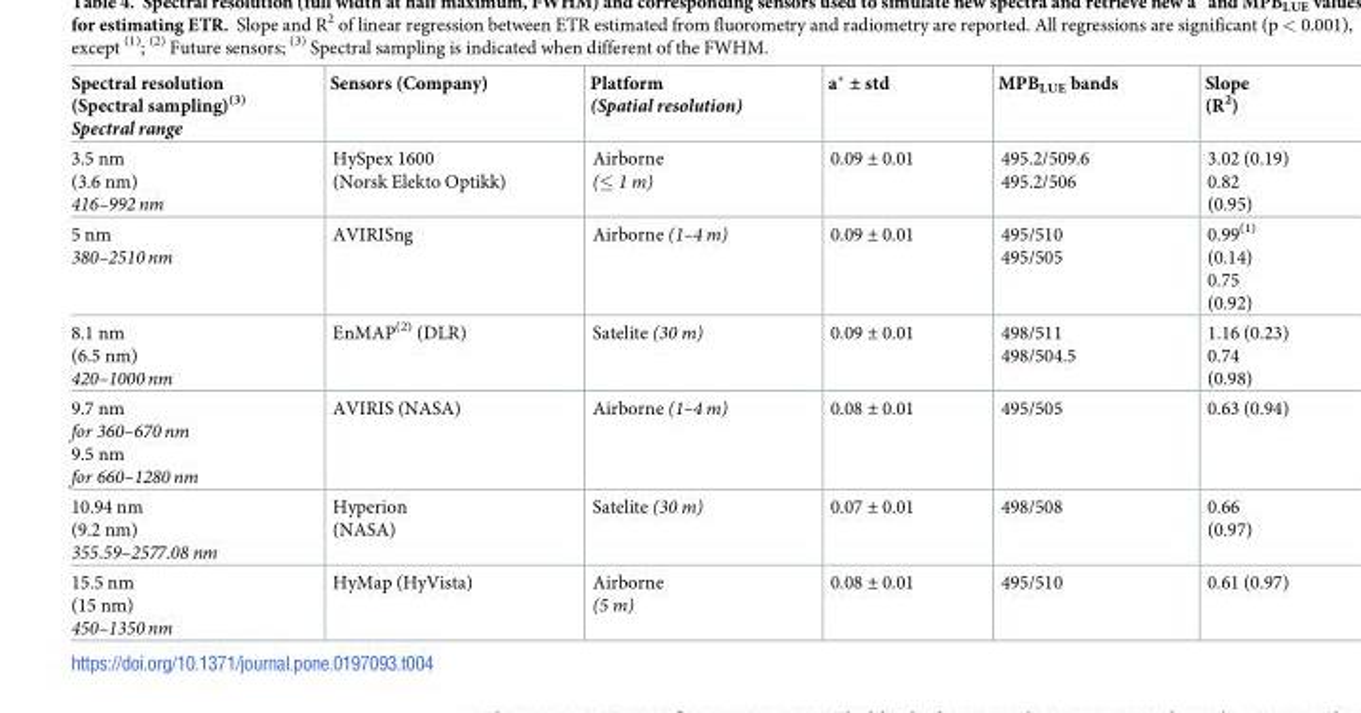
<table><thead><tr><td>Spectral resolution (Spectral sampling)<sup>(3)</sup> Spectral range</td><td>Sensors (Company)</td><td>Platform (Spatial resolution)</td><td>a* ± std</td><td>MPB<sub>LUE</sub> bands</td><td>Slope (R<sup>2</sup>)</td></tr></thead><tbody><tr><td>3.5 nm (3.6 nm) 416–992 nm</td><td>HySpex 1600 (Norsk Elekto Optikk)</td><td>Airborne (≤ 1 m)</td><td>0.09 ± 0.01</td><td>495.2/509.6 495.2/506</td><td>3.02 (0.19) 0.82 (0.95)</td></tr><tr><td>5 nm 380–2510 nm</td><td>AVIRISng</td><td>Airborne (1–4 m)</td><td>0.09 ± 0.01</td><td>495/510 495/505</td><td>0.99<sup>(1)</sup> (0.14) 0.75 (0.92)</td></tr><tr><td>8.1 nm (6.5 nm) 420–1000 nm</td><td>EnMAP<sup>(2)</sup> (DLR)</td><td>Satelite (30 m)</td><td>0.09 ± 0.01</td><td>498/511 498/504.5</td><td>1.16 (0.23) 0.74 (0.98)</td></tr><tr><td>9.7 nm for 360–670 nm 9.5 nm for 660–1280 nm</td><td>AVIRIS (NASA)</td><td>Airborne (1–4 m)</td><td>0.08 ± 0.01</td><td>495/505</td><td>0.63 (0.94)</td></tr><tr><td>10.94 nm (9.2 nm) 355.59–2577.08 nm</td><td>Hyperion (NASA)</td><td>Satelite (30 m)</td><td>0.07 ± 0.01</td><td>498/508</td><td>0.66 (0.97)</td></tr><tr><td>15.5 nm (15 nm) 450–1350 nm</td><td>HyMap (HyVista)</td><td>Airborne (5 m)</td><td>0.08 ± 0.01</td><td>495/510</td><td>0.61 (0.97)</td></tr></tbody></table>